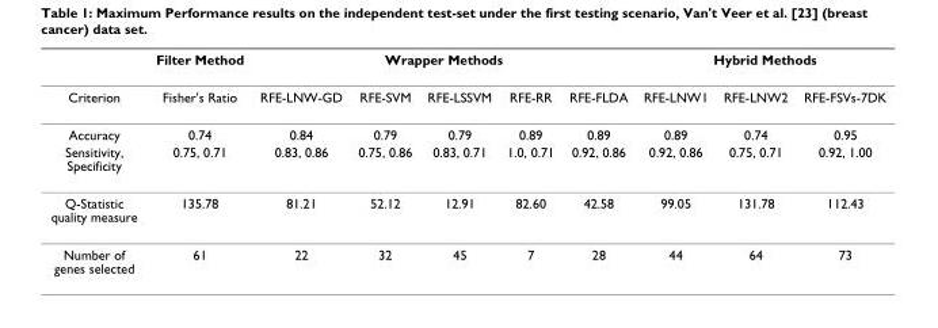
<table><thead><tr><td rowspan="2">Criterion</td><td rowspan="2">Filter Method Fisher&#x27;s Ratio</td><td colspan="5">Wrapper Methods</td><td colspan="3">Hybrid Methods</td></tr><tr><td>RFE-LNW-GD</td><td>RFE-SVM</td><td>RFE-LSSVM</td><td>RFE-RR</td><td>RFE-FLDA</td><td>RFE-LNW1</td><td>RFE-LNW2</td><td>RFE-FSVs-7DK</td></tr></thead><tbody><tr><td>Accuracy</td><td>0.74</td><td>0.84</td><td>0.79</td><td>0.79</td><td>0.89</td><td>0.89</td><td>0.89</td><td>0.74</td><td>0.95</td></tr><tr><td>Sensitivity, Specificity</td><td>0.75, 0.71</td><td>0.83, 0.86</td><td>0.75, 0.86</td><td>0.83, 0.71</td><td>1.0, 0.71</td><td>0.92, 0.86</td><td>0.92, 0.86</td><td>0.75, 0.71</td><td>0.92, 1.00</td></tr><tr><td>Q-Statistic quality measure</td><td>135.78</td><td>81.21</td><td>52.12</td><td>12.91</td><td>82.60</td><td>42.58</td><td>99.05</td><td>131.78</td><td>112.43</td></tr><tr><td>Number of genes selected</td><td>61</td><td>22</td><td>32</td><td>45</td><td>7</td><td>28</td><td>44</td><td>64</td><td>73</td></tr></tbody></table>